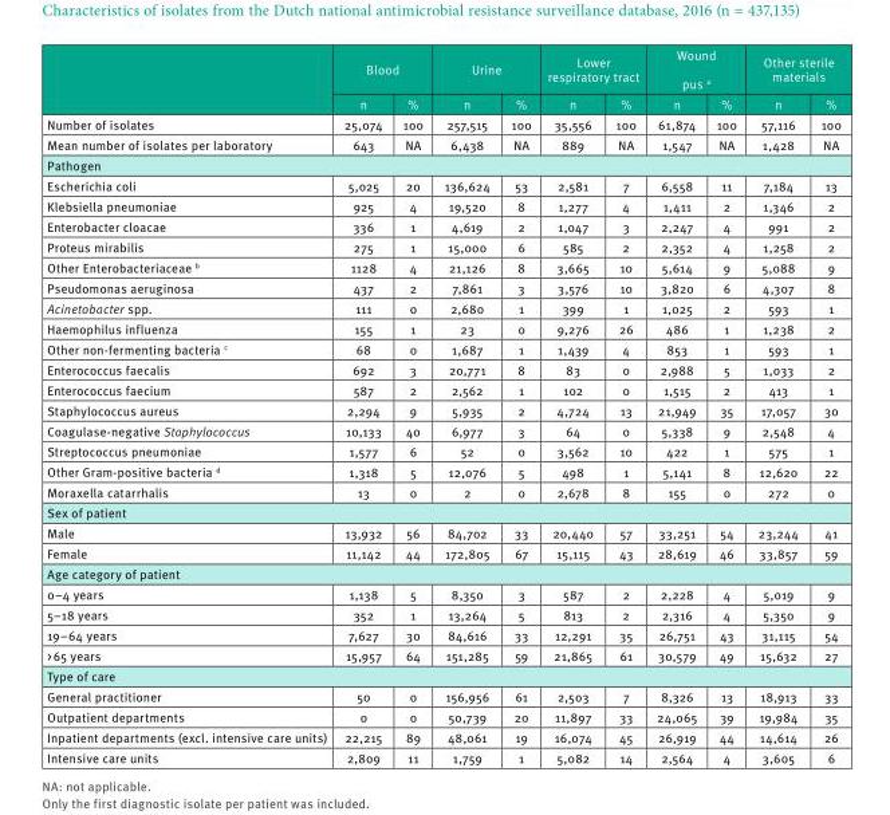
<table><thead><tr><td rowspan="2"></td><td colspan="2">Blood</td><td colspan="2">Urine</td><td colspan="2">Lower respiratory tract</td><td colspan="2">Wound pus <sup>a</sup></td><td colspan="2">Other sterile materials</td></tr><tr><td>n</td><td>%</td><td>n</td><td>%</td><td>n</td><td>%</td><td>n</td><td>%</td><td>n</td><td>%</td></tr></thead><tbody><tr><td>Number of isolates</td><td>25,074</td><td>100</td><td>257,515</td><td>100</td><td>35,556</td><td>100</td><td>61,874</td><td>100</td><td>57,116</td><td>100</td></tr><tr><td>Mean number of isolates per laboratory</td><td>643</td><td>NA</td><td>6,438</td><td>NA</td><td>889</td><td>NA</td><td>1,547</td><td>NA</td><td>1,428</td><td>NA</td></tr><tr><td colspan="11">Pathogen</td></tr><tr><td>Escherichia coli</td><td>5,025</td><td>20</td><td>136,624</td><td>53</td><td>2,581</td><td>7</td><td>6,558</td><td>11</td><td>7,184</td><td>13</td></tr><tr><td>Klebsiella pneumoniae</td><td>925</td><td>4</td><td>19,520</td><td>8</td><td>1,277</td><td>4</td><td>1,411</td><td>2</td><td>1,346</td><td>2</td></tr><tr><td>Enterobacter cloacae</td><td>336</td><td>1</td><td>4,619</td><td>2</td><td>1,047</td><td>3</td><td>2,247</td><td>4</td><td>991</td><td>2</td></tr><tr><td>Proteus mirabilis</td><td>275</td><td>1</td><td>15,000</td><td>6</td><td>585</td><td>2</td><td>2,352</td><td>4</td><td>1,258</td><td>2</td></tr><tr><td>Other Enterobacteriaceae <sup>b</sup></td><td>1128</td><td>4</td><td>21,126</td><td>8</td><td>3,665</td><td>10</td><td>5,614</td><td>9</td><td>5,088</td><td>9</td></tr><tr><td>Pseudomonas aeruginosa</td><td>437</td><td>2</td><td>7,861</td><td>3</td><td>3,576</td><td>10</td><td>3,820</td><td>6</td><td>4,307</td><td>8</td></tr><tr><td>Acinetobacter spp.</td><td>111</td><td>0</td><td>2,680</td><td>1</td><td>399</td><td>1</td><td>1,025</td><td>2</td><td>593</td><td>1</td></tr><tr><td>Haemophilus influenza</td><td>155</td><td>1</td><td>23</td><td>0</td><td>9,276</td><td>26</td><td>486</td><td>1</td><td>1,238</td><td>2</td></tr><tr><td>Other non-fermenting bacteria <sup>c</sup></td><td>68</td><td>0</td><td>1,687</td><td>1</td><td>1,439</td><td>4</td><td>853</td><td>1</td><td>593</td><td>1</td></tr><tr><td>Enterococcus faecalis</td><td>692</td><td>3</td><td>20,771</td><td>8</td><td>83</td><td>0</td><td>2,988</td><td>5</td><td>1,033</td><td>2</td></tr><tr><td>Enterococcus faecium</td><td>587</td><td>2</td><td>2,562</td><td>1</td><td>102</td><td>0</td><td>1,515</td><td>2</td><td>413</td><td>1</td></tr><tr><td>Staphylococcus aureus</td><td>2,294</td><td>9</td><td>5,935</td><td>2</td><td>4,724</td><td>13</td><td>21,949</td><td>35</td><td>17,057</td><td>30</td></tr><tr><td>Coagulase-negative Staphylococcus</td><td>10,133</td><td>40</td><td>6,977</td><td>3</td><td>64</td><td>0</td><td>5,338</td><td>9</td><td>2,548</td><td>4</td></tr><tr><td>Streptococcus pneumoniae</td><td>1,577</td><td>6</td><td>52</td><td>0</td><td>3,562</td><td>10</td><td>422</td><td>1</td><td>575</td><td>1</td></tr><tr><td>Other Gram-positive bacteria <sup>d</sup></td><td>1,318</td><td>5</td><td>12,076</td><td>5</td><td>498</td><td>1</td><td>5,141</td><td>8</td><td>12,620</td><td>22</td></tr><tr><td>Moraxella catarrhalis</td><td>13</td><td>0</td><td>2</td><td>0</td><td>2,678</td><td>8</td><td>155</td><td>0</td><td>272</td><td>0</td></tr><tr><td colspan="11">Sex of patient</td></tr><tr><td>Male</td><td>13,932</td><td>56</td><td>84,702</td><td>33</td><td>20,440</td><td>57</td><td>33,251</td><td>54</td><td>23,244</td><td>41</td></tr><tr><td>Female</td><td>11,142</td><td>44</td><td>172,805</td><td>67</td><td>15,115</td><td>43</td><td>28,619</td><td>46</td><td>33,857</td><td>59</td></tr><tr><td colspan="11">Age category of patient</td></tr><tr><td>0–4 years</td><td>1,138</td><td>5</td><td>8,350</td><td>3</td><td>587</td><td>2</td><td>2,228</td><td>4</td><td>5,019</td><td>9</td></tr><tr><td>5–18 years</td><td>352</td><td>1</td><td>13,264</td><td>5</td><td>813</td><td>2</td><td>2,316</td><td>4</td><td>5,350</td><td>9</td></tr><tr><td>19–64 years</td><td>7,627</td><td>30</td><td>84,616</td><td>33</td><td>12,291</td><td>35</td><td>26,751</td><td>43</td><td>31,115</td><td>54</td></tr><tr><td>&gt; 65 years</td><td>15,957</td><td>64</td><td>151,285</td><td>59</td><td>21,865</td><td>61</td><td>30,579</td><td>49</td><td>15,632</td><td>27</td></tr><tr><td colspan="11">Type of care</td></tr><tr><td>General practitioner</td><td>50</td><td>0</td><td>156,956</td><td>61</td><td>2,503</td><td>7</td><td>8,326</td><td>13</td><td>18,913</td><td>33</td></tr><tr><td>Outpatient departments</td><td>0</td><td>0</td><td>50,739</td><td>20</td><td>11,897</td><td>33</td><td>24,065</td><td>39</td><td>19,984</td><td>35</td></tr><tr><td>Inpatient departments (excl. intensive care units)</td><td>22,215</td><td>89</td><td>48,061</td><td>19</td><td>16,074</td><td>45</td><td>26,919</td><td>44</td><td>14,614</td><td>26</td></tr><tr><td>Intensive care units</td><td>2,809</td><td>11</td><td>1,759</td><td>1</td><td>5,082</td><td>14</td><td>2,564</td><td>4</td><td>3,605</td><td>6</td></tr></tbody></table>